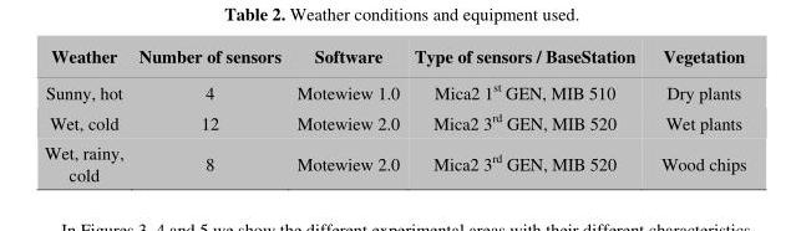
<table><thead><tr><td>Weather</td><td>Number of sensors</td><td>Software</td><td>Type of sensors / BaseStation</td><td>Vegetation</td></tr></thead><tbody><tr><td>Sunny, hot</td><td>4</td><td>Motewiew 1.0</td><td>Mica2 1<sup>st</sup> GEN, MIB 510</td><td>Dry plants</td></tr><tr><td>Wet, cold</td><td>12</td><td>Motewiew 2.0</td><td>Mica2 3<sup>rd</sup> GEN, MIB 520</td><td>Wet plants</td></tr><tr><td>Wet, rainy, cold</td><td>8</td><td>Motewiew 2.0</td><td>Mica2 3<sup>rd</sup> GEN, MIB 520</td><td>Wood chips</td></tr></tbody></table>